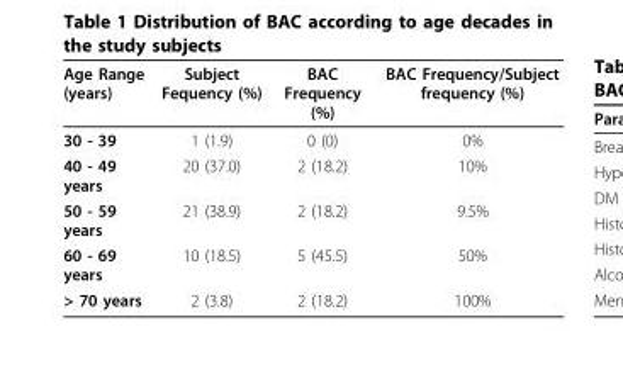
<table><thead><tr><td>Age Range (years)</td><td>Subject Fequency (%)</td><td>BAC Frequency (%)</td><td>BAC Frequency/Subject frequency (%)</td></tr></thead><tbody><tr><td>30 - 39</td><td>1 (1.9)</td><td>0 (0)</td><td>0%</td></tr><tr><td>40 - 49 years</td><td>20 (37.0)</td><td>2 (18.2)</td><td>10%</td></tr><tr><td>50 - 59 years</td><td>21 (38.9)</td><td>2 (18.2)</td><td>9.5%</td></tr><tr><td>60 - 69 years</td><td>10 (18.5)</td><td>5 (45.5)</td><td>50%</td></tr><tr><td>&gt; 70 years</td><td>2 (3.8)</td><td>2 (18.2)</td><td>100%</td></tr></tbody></table>